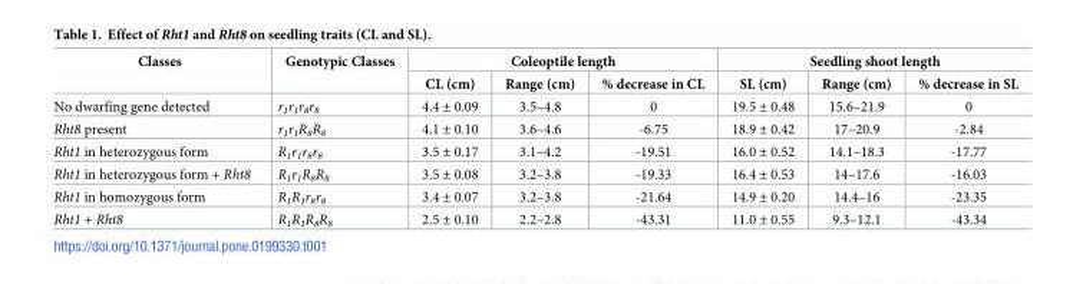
<table><thead><tr><td rowspan="2">Classes</td><td rowspan="2">Genotypic Classes</td><td colspan="3">Coleoptile length</td><td colspan="3">Seedling shoot length</td></tr><tr><td>CL (cm)</td><td>Range (cm)</td><td>% decrease in CL</td><td>SL (cm)</td><td>Range (cm)</td><td>% decrease in SL</td></tr></thead><tbody><tr><td>No dwarfing gene detected</td><td>r<sub>1</sub>r<sub>1</sub>r<sub>8</sub>r<sub>8</sub></td><td>4.4 ± 0.09</td><td>3.5–4.8</td><td>0</td><td>19.5 ± 0.48</td><td>15.6–21.9</td><td>0</td></tr><tr><td>Rht8 present</td><td>r<sub>1</sub>r<sub>1</sub>R<sub>8</sub>R<sub>8</sub></td><td>4.1 ± 0.10</td><td>3.6–4.6</td><td>-6.75</td><td>18.9 ± 0.42</td><td>17–20.9</td><td>-2.84</td></tr><tr><td>Rht1 in heterozygous form</td><td>R<sub>1</sub>r<sub>1</sub>r<sub>8</sub>r<sub>8</sub></td><td>3.5 ± 0.17</td><td>3.1–4.2</td><td>-19.51</td><td>16.0 ± 0.52</td><td>14.1–18.3</td><td>-17.77</td></tr><tr><td>Rht1 in heterozygous form + Rht8</td><td>R<sub>1</sub>r<sub>1</sub>R<sub>8</sub>R<sub>8</sub></td><td>3.5 ± 0.08</td><td>3.2–3.8</td><td>-19.33</td><td>16.4 ± 0.53</td><td>14–17.6</td><td>-16.03</td></tr><tr><td>Rht1 in homozygous form</td><td>R<sub>1</sub>R<sub>1</sub>r<sub>8</sub>r<sub>8</sub></td><td>3.4 ± 0.07</td><td>3.2–3.8</td><td>-21.64</td><td>14.9 ± 0.20</td><td>14.4–16</td><td>-23.35</td></tr><tr><td>Rht1 + Rht8</td><td>R<sub>1</sub>R<sub>1</sub>R<sub>8</sub>R<sub>8</sub></td><td>2.5 ± 0.10</td><td>2.2–2.8</td><td>-43.31</td><td>11.0 ± 0.55</td><td>9.3–12.1</td><td>-43.34</td></tr></tbody></table>